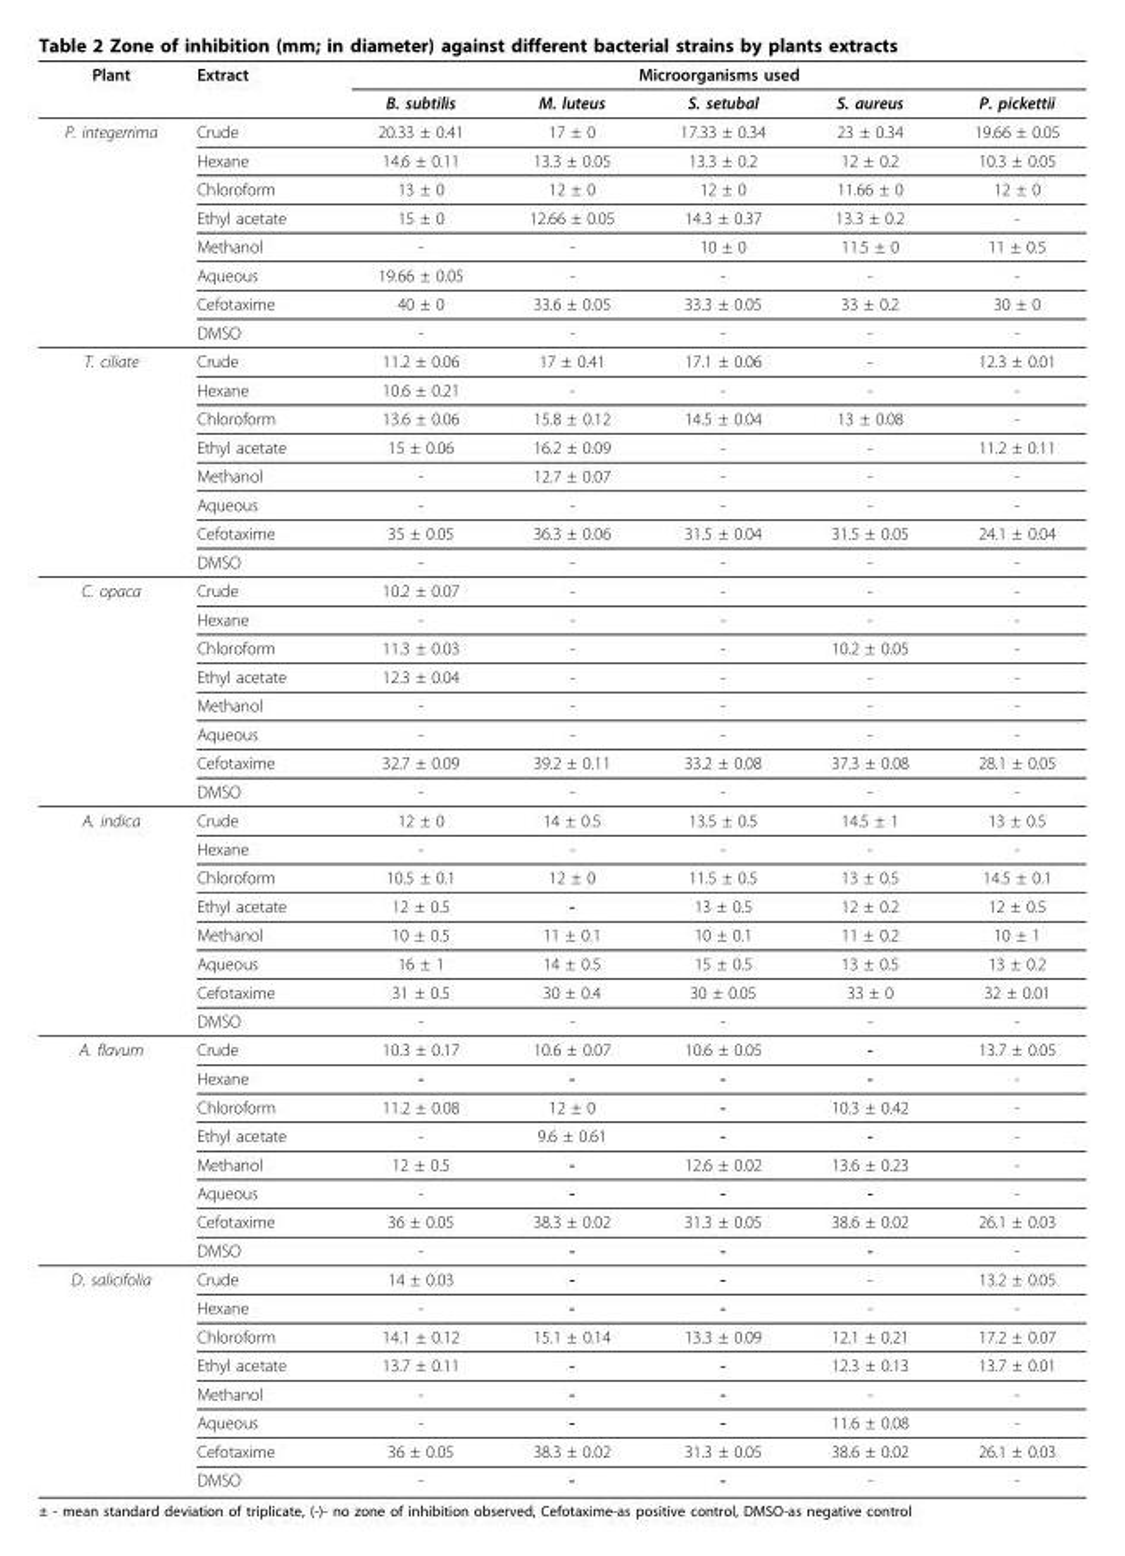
<table><thead><tr><td rowspan="2">Plant</td><td rowspan="2">Extract</td><td colspan="5">Microorganisms used</td></tr><tr><td>B. subtilis</td><td>M. luteus</td><td>S. setubal</td><td>S. aureus</td><td>P. pickettii</td></tr></thead><tbody><tr><td rowspan="8">P. integerrima</td><td>Crude</td><td>20.33 ± 0.41</td><td>17 ± 0</td><td>17.33 ± 0.34</td><td>23 ± 0.34</td><td>19.66 ± 0.05</td></tr><tr><td>Hexane</td><td>14.6 ± 0.11</td><td>13.3 ± 0.05</td><td>13.3 ± 0.2</td><td>12 ± 0.2</td><td>10.3 ± 0.05</td></tr><tr><td>Chloroform</td><td>13 ± 0</td><td>12 ± 0</td><td>12 ± 0</td><td>11.66 ± 0</td><td>12 ± 0</td></tr><tr><td>Ethyl acetate</td><td>15 ± 0</td><td>12.66 ± 0.05</td><td>14.3 ± 0.37</td><td>13.3 ± 0.2</td><td>-</td></tr><tr><td>Methanol</td><td>-</td><td>-</td><td>10 ± 0</td><td>11.5 ± 0</td><td>11 ± 0.5</td></tr><tr><td>Aqueous</td><td>19.66 ± 0.05</td><td>-</td><td>-</td><td>-</td><td>-</td></tr><tr><td>Cefotaxime</td><td>40 ± 0</td><td>33.6 ± 0.05</td><td>33.3 ± 0.05</td><td>33 ± 0.2</td><td>30 ± 0</td></tr><tr><td>DMSO</td><td>-</td><td>-</td><td>-</td><td>-</td><td>-</td></tr><tr><td rowspan="8">T. ciliate</td><td>Crude</td><td>11.2 ± 0.06</td><td>17 ± 0.41</td><td>17.1 ± 0.06</td><td>-</td><td>12.3 ± 0.01</td></tr><tr><td>Hexane</td><td>10.6 ± 0.21</td><td>-</td><td>-</td><td>-</td><td>-</td></tr><tr><td>Chloroform</td><td>13.6 ± 0.06</td><td>15.8 ± 0.12</td><td>14.5 ± 0.04</td><td>13 ± 0.08</td><td>-</td></tr><tr><td>Ethyl acetate</td><td>15 ± 0.06</td><td>16.2 ± 0.09</td><td>-</td><td>-</td><td>11.2 ± 0.11</td></tr><tr><td>Methanol</td><td>-</td><td>12.7 ± 0.07</td><td>-</td><td>-</td><td>-</td></tr><tr><td>Aqueous</td><td>-</td><td>-</td><td>-</td><td>-</td><td>-</td></tr><tr><td>Cefotaxime</td><td>35 ± 0.05</td><td>36.3 ± 0.06</td><td>31.5 ± 0.04</td><td>31.5 ± 0.05</td><td>24.1 ± 0.04</td></tr><tr><td>DMSO</td><td>-</td><td>-</td><td>-</td><td>-</td><td>-</td></tr><tr><td rowspan="8">C. opaca</td><td>Crude</td><td>10.2 ± 0.07</td><td>-</td><td>-</td><td>-</td><td>-</td></tr><tr><td>Hexane</td><td>-</td><td>-</td><td>-</td><td>-</td><td>-</td></tr><tr><td>Chloroform</td><td>11.3 ± 0.03</td><td>-</td><td>-</td><td>10.2 ± 0.05</td><td>-</td></tr><tr><td>Ethyl acetate</td><td>12.3 ± 0.04</td><td>-</td><td>-</td><td>-</td><td>-</td></tr><tr><td>Methanol</td><td>-</td><td>-</td><td>-</td><td>-</td><td>-</td></tr><tr><td>Aqueous</td><td>-</td><td>-</td><td>-</td><td>-</td><td>-</td></tr><tr><td>Cefotaxime</td><td>32.7 ± 0.09</td><td>39.2 ± 0.11</td><td>33.2 ± 0.08</td><td>37.3 ± 0.08</td><td>28.1 ± 0.05</td></tr><tr><td>DMSO</td><td>-</td><td>-</td><td>-</td><td>-</td><td>-</td></tr><tr><td rowspan="8">A. indica</td><td>Crude</td><td>12 ± 0</td><td>14 ± 0.5</td><td>13.5 ± 0.5</td><td>14.5 ± 1</td><td>13 ± 0.5</td></tr><tr><td>Hexane</td><td>-</td><td>-</td><td>-</td><td>-</td><td>-</td></tr><tr><td>Chloroform</td><td>10.5 ± 0.1</td><td>12 ± 0</td><td>11.5 ± 0.5</td><td>13 ± 0.5</td><td>14.5 ± 0.1</td></tr><tr><td>Ethyl acetate</td><td>12 ± 0.5</td><td>-</td><td>13 ± 0.5</td><td>12 ± 0.2</td><td>12 ± 0.5</td></tr><tr><td>Methanol</td><td>10 ± 0.5</td><td>11 ± 0.1</td><td>10 ± 0.1</td><td>11 ± 0.2</td><td>10 ± 1</td></tr><tr><td>Aqueous</td><td>16 ± 1</td><td>14 ± 0.5</td><td>15 ± 0.5</td><td>13 ± 0.5</td><td>13 ± 0.2</td></tr><tr><td>Cefotaxime</td><td>31 ± 0.5</td><td>30 ± 0.4</td><td>30 ± 0.05</td><td>33 ± 0</td><td>32 ± 0.01</td></tr><tr><td>DMSO</td><td>-</td><td>-</td><td>-</td><td>-</td><td>-</td></tr><tr><td rowspan="8">A. flavum</td><td>Crude</td><td>10.3 ± 0.17</td><td>10.6 ± 0.07</td><td>10.6 ± 0.05</td><td>-</td><td>13.7 ± 0.05</td></tr><tr><td>Hexane</td><td>-</td><td>-</td><td>-</td><td>-</td><td>-</td></tr><tr><td>Chloroform</td><td>11.2 ± 0.08</td><td>12 ± 0</td><td>-</td><td>10.3 ± 0.42</td><td>-</td></tr><tr><td>Ethyl acetate</td><td>-</td><td>9.6 ± 0.61</td><td>-</td><td>-</td><td>-</td></tr><tr><td>Methanol</td><td>12 ± 0.5</td><td>-</td><td>12.6 ± 0.02</td><td>13.6 ± 0.23</td><td>-</td></tr><tr><td>Aqueous</td><td>-</td><td>-</td><td>-</td><td>-</td><td>-</td></tr><tr><td>Cefotaxime</td><td>36 ± 0.05</td><td>38.3 ± 0.02</td><td>31.3 ± 0.05</td><td>38.6 ± 0.02</td><td>26.1 ± 0.03</td></tr><tr><td>DMSO</td><td>-</td><td>-</td><td>-</td><td>-</td><td>-</td></tr><tr><td rowspan="8">D. salicifolia</td><td>Crude</td><td>14 ± 0.03</td><td>-</td><td>-</td><td>-</td><td>13.2 ± 0.05</td></tr><tr><td>Hexane</td><td>-</td><td>-</td><td>-</td><td>-</td><td>-</td></tr><tr><td>Chloroform</td><td>14.1 ± 0.12</td><td>15.1 ± 0.14</td><td>13.3 ± 0.09</td><td>12.1 ± 0.21</td><td>17.2 ± 0.07</td></tr><tr><td>Ethyl acetate</td><td>13.7 ± 0.11</td><td>-</td><td>-</td><td>12.3 ± 0.13</td><td>13.7 ± 0.01</td></tr><tr><td>Methanol</td><td>-</td><td>-</td><td>-</td><td>-</td><td>-</td></tr><tr><td>Aqueous</td><td>-</td><td>-</td><td>-</td><td>11.6 ± 0.08</td><td>-</td></tr><tr><td>Cefotaxime</td><td>36 ± 0.05</td><td>38.3 ± 0.02</td><td>31.3 ± 0.05</td><td>38.6 ± 0.02</td><td>26.1 ± 0.03</td></tr><tr><td>DMSO</td><td>-</td><td>-</td><td>-</td><td>-</td><td>-</td></tr></tbody></table>